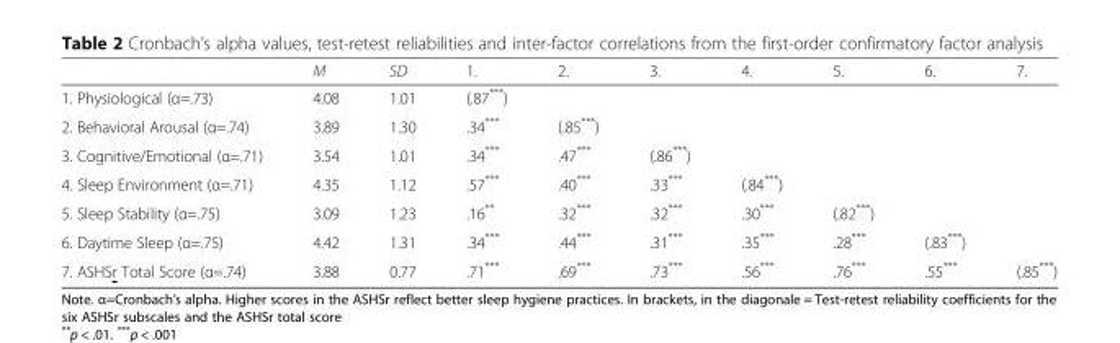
<table><thead><tr><td></td><td>M</td><td>SD</td><td>1.</td><td>2.</td><td>3.</td><td>4.</td><td>5.</td><td>6.</td><td>7.</td></tr></thead><tbody><tr><td>1. Physiological (α=.73)</td><td>4.08</td><td>1.01</td><td>(.87***)</td><td></td><td></td><td></td><td></td><td></td><td></td></tr><tr><td>2. Behavioral Arousal (α=.74)</td><td>3.89</td><td>1.30</td><td>.34***</td><td>(.85***)</td><td></td><td></td><td></td><td></td><td></td></tr><tr><td>3. Cognitive/Emotional (α=.71)</td><td>3.54</td><td>1.01</td><td>.34***</td><td>.47***</td><td>(.86***)</td><td></td><td></td><td></td><td></td></tr><tr><td>4. Sleep Environment (α=.71)</td><td>4.35</td><td>1.12</td><td>.57***</td><td>.40***</td><td>.33***</td><td>(.84***)</td><td></td><td></td><td></td></tr><tr><td>5. Sleep Stability (α=.75)</td><td>3.09</td><td>1.23</td><td>.16**</td><td>.32***</td><td>.32***</td><td>.30***</td><td>(.82***)</td><td></td><td></td></tr><tr><td>6. Daytime Sleep (α=.75)</td><td>4.42</td><td>1.31</td><td>.34***</td><td>.44***</td><td>.31***</td><td>.35***</td><td>.28***</td><td>(.83***)</td><td></td></tr><tr><td>7. ASHSr Total Score (α=.74)</td><td>3.88</td><td>0.77</td><td>.71***</td><td>.69***</td><td>.73***</td><td>.56***</td><td>.76***</td><td>.55***</td><td>(.85***)</td></tr></tbody></table>